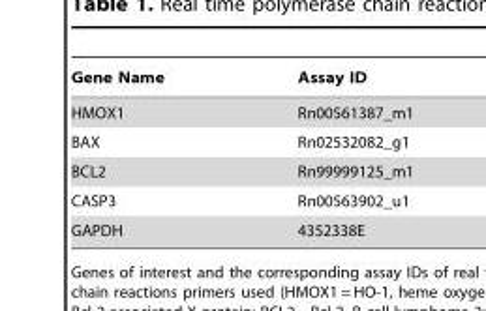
<table><thead><tr><td>Gene Name</td><td>Assay ID</td></tr></thead><tbody><tr><td>HMOX1</td><td>Rn00561387_m1</td></tr><tr><td>BAX</td><td>Rn02532082_g1</td></tr><tr><td>BCL2</td><td>Rn99999125_m1</td></tr><tr><td>CASP3</td><td>Rn00563902_u1</td></tr><tr><td>GAPDH</td><td>4352338E</td></tr></tbody></table>